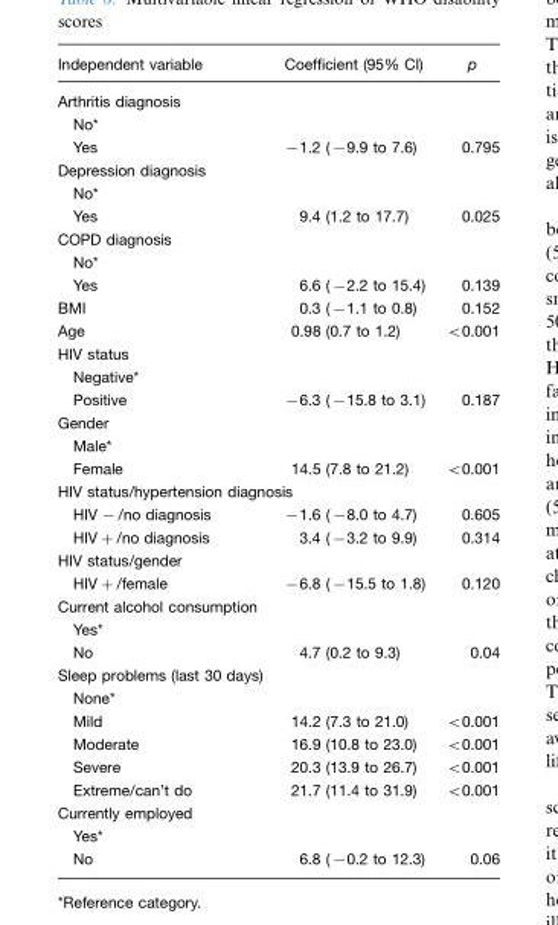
<table><thead><tr><td>Independent variable</td><td>Coefficient (95% CI)</td><td>p</td></tr></thead><tbody><tr><td colspan="3">Arthritis diagnosis</td></tr><tr><td colspan="3">No*</td></tr><tr><td>Yes</td><td>−1.2 (−9.9 to 7.6)</td><td>0.795</td></tr><tr><td colspan="3">Depression diagnosis</td></tr><tr><td colspan="3">No*</td></tr><tr><td>Yes</td><td>9.4 (1.2 to 17.7)</td><td>0.025</td></tr><tr><td colspan="3">COPD diagnosis</td></tr><tr><td colspan="3">No*</td></tr><tr><td>Yes</td><td>6.6 (−2.2 to 15.4)</td><td>0.139</td></tr><tr><td>BMI</td><td>0.3 (−1.1 to 0.8)</td><td>0.152</td></tr><tr><td>Age</td><td>0.98 (0.7 to 1.2)</td><td>&lt;0.001</td></tr><tr><td colspan="3">HIV status</td></tr><tr><td colspan="3">Negative*</td></tr><tr><td>Positive</td><td>−6.3 (−15.8 to 3.1)</td><td>0.187</td></tr><tr><td colspan="3">Gender</td></tr><tr><td colspan="3">Male*</td></tr><tr><td>Female</td><td>14.5 (7.8 to 21.2)</td><td>&lt;0.001</td></tr><tr><td colspan="3">HIV status/hypertension diagnosis</td></tr><tr><td>HIV −/no diagnosis</td><td>−1.6 (−8.0 to 4.7)</td><td>0.605</td></tr><tr><td>HIV+/no diagnosis</td><td>3.4 (−3.2 to 9.9)</td><td>0.314</td></tr><tr><td colspan="3">HIV status/gender</td></tr><tr><td>HIV+/female</td><td>−6.8 (−15.5 to 1.8)</td><td>0.120</td></tr><tr><td colspan="3">Current alcohol consumption</td></tr><tr><td colspan="3">Yes*</td></tr><tr><td>No</td><td>4.7 (0.2 to 9.3)</td><td>0.04</td></tr><tr><td colspan="3">Sleep problems (last 30 days)</td></tr><tr><td colspan="3">None*</td></tr><tr><td>Mild</td><td>14.2 (7.3 to 21.0)</td><td>&lt;0.001</td></tr><tr><td>Moderate</td><td>16.9 (10.8 to 23.0)</td><td>&lt;0.001</td></tr><tr><td>Severe</td><td>20.3 (13.9 to 26.7)</td><td>&lt;0.001</td></tr><tr><td>Extreme/can’t do</td><td>21.7 (11.4 to 31.9)</td><td>&lt;0.001</td></tr><tr><td colspan="3">Currently employed</td></tr><tr><td colspan="3">Yes*</td></tr><tr><td>No</td><td>6.8 (−0.2 to 12.3)</td><td>0.06</td></tr></tbody></table>